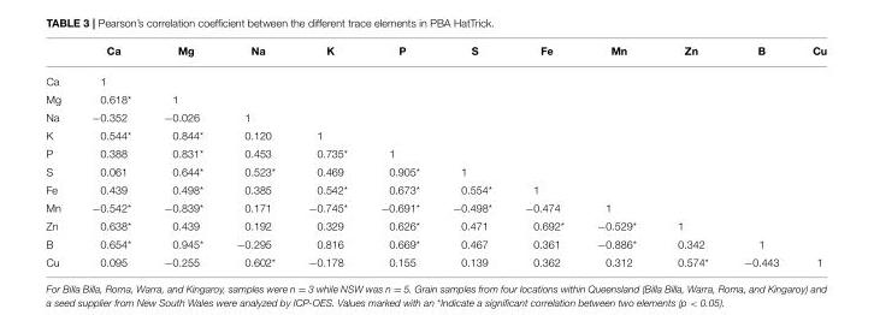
<table><thead><tr><td></td><td>Ca</td><td>Mg</td><td>Na</td><td>K</td><td>P</td><td>S</td><td>Fe</td><td>Mn</td><td>Zn</td><td>B</td><td>Cu</td></tr></thead><tbody><tr><td>Ca</td><td>1</td><td></td><td></td><td></td><td></td><td></td><td></td><td></td><td></td><td></td><td></td></tr><tr><td>Mg</td><td>0.618*</td><td>1</td><td></td><td></td><td></td><td></td><td></td><td></td><td></td><td></td><td></td></tr><tr><td>Na</td><td>−0.352</td><td>−0.026</td><td>1</td><td></td><td></td><td></td><td></td><td></td><td></td><td></td><td></td></tr><tr><td>K</td><td>0.544*</td><td>0.844*</td><td>0.120</td><td>1</td><td></td><td></td><td></td><td></td><td></td><td></td><td></td></tr><tr><td>P</td><td>0.388</td><td>0.831*</td><td>0.453</td><td>0.735*</td><td>1</td><td></td><td></td><td></td><td></td><td></td><td></td></tr><tr><td>S</td><td>0.061</td><td>0.644*</td><td>0.523*</td><td>0.469</td><td>0.905*</td><td>1</td><td></td><td></td><td></td><td></td><td></td></tr><tr><td>Fe</td><td>0.439</td><td>0.498*</td><td>0.385</td><td>0.542*</td><td>0.673*</td><td>0.554*</td><td>1</td><td></td><td></td><td></td><td></td></tr><tr><td>Mn</td><td>−0.542*</td><td>−0.839*</td><td>0.171</td><td>−0.745*</td><td>−0.691*</td><td>−0.498*</td><td>−0.474</td><td>1</td><td></td><td></td><td></td></tr><tr><td>Zn</td><td>0.638*</td><td>0.439</td><td>0.192</td><td>0.329</td><td>0.626*</td><td>0.471</td><td>0.692*</td><td>−0.529*</td><td>1</td><td></td><td></td></tr><tr><td>B</td><td>0.654*</td><td>0.945*</td><td>−0.295</td><td>0.816</td><td>0.669*</td><td>0.467</td><td>0.361</td><td>−0.886*</td><td>0.342</td><td>1</td><td></td></tr><tr><td>Cu</td><td>0.095</td><td>−0.255</td><td>0.602*</td><td>−0.178</td><td>0.155</td><td>0.139</td><td>0.362</td><td>0.312</td><td>0.574*</td><td>−0.443</td><td>1</td></tr></tbody></table>